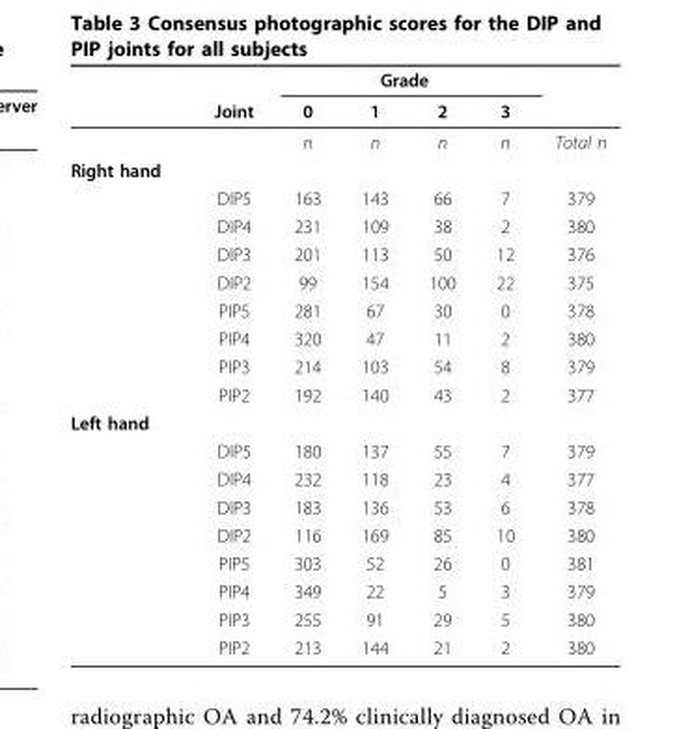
<table><thead><tr><td rowspan="2"></td><td rowspan="2">Joint</td><td colspan="4">Grade</td><td rowspan="2"></td></tr><tr><td>0</td><td>1</td><td>2</td><td>3</td></tr></thead><tbody><tr><td></td><td></td><td>n</td><td>n</td><td>n</td><td>n</td><td>Total n</td></tr><tr><td colspan="7">Right hand</td></tr><tr><td></td><td>DIP5</td><td>163</td><td>143</td><td>66</td><td>7</td><td>379</td></tr><tr><td></td><td>DIP4</td><td>231</td><td>109</td><td>38</td><td>2</td><td>380</td></tr><tr><td></td><td>DIP3</td><td>201</td><td>113</td><td>50</td><td>12</td><td>376</td></tr><tr><td></td><td>DIP2</td><td>99</td><td>154</td><td>100</td><td>22</td><td>375</td></tr><tr><td></td><td>PIP5</td><td>281</td><td>67</td><td>30</td><td>0</td><td>378</td></tr><tr><td></td><td>PIP4</td><td>320</td><td>47</td><td>11</td><td>2</td><td>380</td></tr><tr><td></td><td>PIP3</td><td>214</td><td>103</td><td>54</td><td>8</td><td>379</td></tr><tr><td></td><td>PIP2</td><td>192</td><td>140</td><td>43</td><td>2</td><td>377</td></tr><tr><td colspan="7">Left hand</td></tr><tr><td></td><td>DIP5</td><td>180</td><td>137</td><td>55</td><td>7</td><td>379</td></tr><tr><td></td><td>DIP4</td><td>232</td><td>118</td><td>23</td><td>4</td><td>377</td></tr><tr><td></td><td>DIP3</td><td>183</td><td>136</td><td>53</td><td>6</td><td>378</td></tr><tr><td></td><td>DIP2</td><td>116</td><td>169</td><td>85</td><td>10</td><td>380</td></tr><tr><td></td><td>PIP5</td><td>303</td><td>52</td><td>26</td><td>0</td><td>381</td></tr><tr><td></td><td>PIP4</td><td>349</td><td>22</td><td>5</td><td>3</td><td>379</td></tr><tr><td></td><td>PIP3</td><td>255</td><td>91</td><td>29</td><td>5</td><td>380</td></tr><tr><td></td><td>PIP2</td><td>213</td><td>144</td><td>21</td><td>2</td><td>380</td></tr></tbody></table>